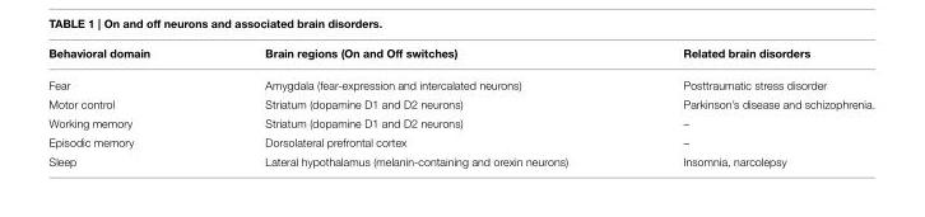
<table><thead><tr><td>Behavioral domain</td><td>Brain regions (On and Off switches)</td><td>Related brain disorders</td></tr></thead><tbody><tr><td>Fear</td><td>Amygdala (fear-expression and intercalated neurons)</td><td>Posttraumatic stress disorder</td></tr><tr><td>Motor control</td><td>Striatum (dopamine D1 and D2 neurons)</td><td>Parkinson’s disease and schizophrenia.</td></tr><tr><td>Working memory</td><td>Striatum (dopamine D1 and D2 neurons)</td><td>–</td></tr><tr><td>Episodic memory</td><td>Dorsolateral prefrontal cortex</td><td>–</td></tr><tr><td>Sleep</td><td>Lateral hypothalamus (melanin-containing and orexin neurons)</td><td>Insomnia, narcolepsy</td></tr></tbody></table>